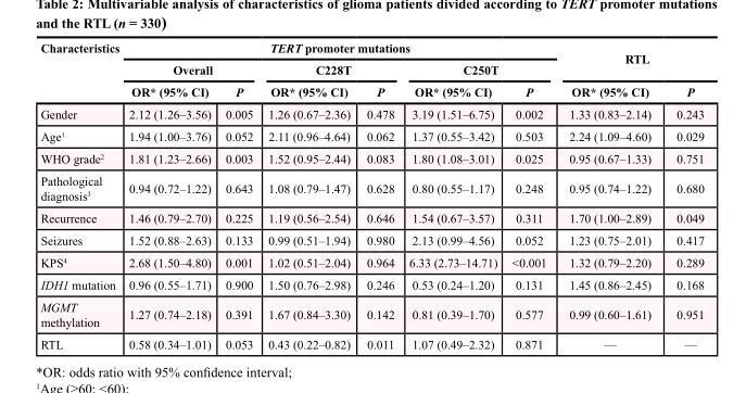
<table><thead><tr><td rowspan="3">Characteristics</td><td colspan="6">TERT promoter mutations</td><td rowspan="2" colspan="2">RTL</td></tr><tr><td colspan="2">Overall</td><td colspan="2">C228T</td><td colspan="2">C250T</td></tr><tr><td>OR* (95% CI)</td><td>P</td><td>OR* (95% CI)</td><td>P</td><td>OR* (95% CI)</td><td>P</td><td>OR* (95% CI)</td><td>P</td></tr></thead><tbody><tr><td>Gender</td><td>2.12 (1.26–3.56)</td><td>0.005</td><td>1.26 (0.67–2.36)</td><td>0.478</td><td>3.19 (1.51–6.75)</td><td>0.002</td><td>1.33 (0.83–2.14)</td><td>0.243</td></tr><tr><td>Age<sup>1</sup></td><td>1.94 (1.00–3.76)</td><td>0.052</td><td>2.11 (0.96–4.64)</td><td>0.062</td><td>1.37 (0.55–3.42)</td><td>0.503</td><td>2.24 (1.09–4.60)</td><td>0.029</td></tr><tr><td>WHO grade<sup>2</sup></td><td>1.81 (1.23–2.66)</td><td>0.003</td><td>1.52 (0.95–2.44)</td><td>0.083</td><td>1.80 (1.08–3.01)</td><td>0.025</td><td>0.95 (0.67–1.33)</td><td>0.751</td></tr><tr><td>Pathological diagnosis<sup>3</sup></td><td>0.94 (0.72–1.22)</td><td>0.643</td><td>1.08 (0.79–1.47)</td><td>0.628</td><td>0.80 (0.55–1.17)</td><td>0.248</td><td>0.95 (0.74–1.22)</td><td>0.680</td></tr><tr><td>Recurrence</td><td>1.46 (0.79–2.70)</td><td>0.225</td><td>1.19 (0.56–2.54)</td><td>0.646</td><td>1.54 (0.67–3.57)</td><td>0.311</td><td>1.70 (1.00–2.89)</td><td>0.049</td></tr><tr><td>Seizures</td><td>1.52 (0.88–2.63)</td><td>0.133</td><td>0.99 (0.51–1.94)</td><td>0.980</td><td>2.13 (0.99–4.56)</td><td>0.052</td><td>1.23 (0.75–2.01)</td><td>0.417</td></tr><tr><td>KPS<sup>4</sup></td><td>2.68 (1.50–4.80)</td><td>0.001</td><td>1.02 (0.51–2.04)</td><td>0.964</td><td>6.33 (2.73–14.71)</td><td>&lt;0.001</td><td>1.32 (0.79–2.20)</td><td>0.289</td></tr><tr><td>IDH1 mutation</td><td>0.96 (0.55–1.71)</td><td>0.900</td><td>1.50 (0.76–2.98)</td><td>0.246</td><td>0.53 (0.24–1.20)</td><td>0.131</td><td>1.45 (0.86–2.45)</td><td>0.168</td></tr><tr><td>MGMT methylation</td><td>1.27 (0.74–2.18)</td><td>0.391</td><td>1.67 (0.84–3.30)</td><td>0.142</td><td>0.81 (0.39–1.70)</td><td>0.577</td><td>0.99 (0.60–1.61)</td><td>0.951</td></tr><tr><td>RTL</td><td>0.58 (0.34–1.01)</td><td>0.053</td><td>0.43 (0.22–0.82)</td><td>0.011</td><td>1.07 (0.49–2.32)</td><td>0.871</td><td>—</td><td>—</td></tr></tbody></table>